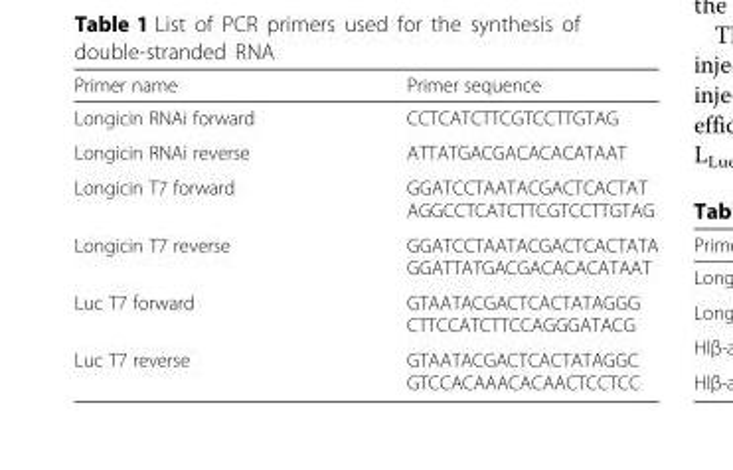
<table><thead><tr><td>Primer name</td><td>Primer sequence</td></tr></thead><tbody><tr><td>Longicin RNAi forward</td><td>CCTCATCTTCGTCCTTGTAG</td></tr><tr><td>Longicin RNAi reverse</td><td>ATTATGACGACACACATAAT</td></tr><tr><td>Longicin T7 forward</td><td>GGATCCTAATACGACTCACTAT AGGCCTCATCTTCGTCCTTGTAG</td></tr><tr><td>Longicin T7 reverse</td><td>GGATCCTAATACGACTCACTATA GGATTATGACGACACACATAAT</td></tr><tr><td>Luc T7 forward</td><td>GTAATACGACTCACTATAGGG CTTCCATCTTCCAGGGATACG</td></tr><tr><td>Luc T7 reverse</td><td>GTAATACGACTCACTATAGGC GTCCACAAACACAACTCCTCC</td></tr></tbody></table>